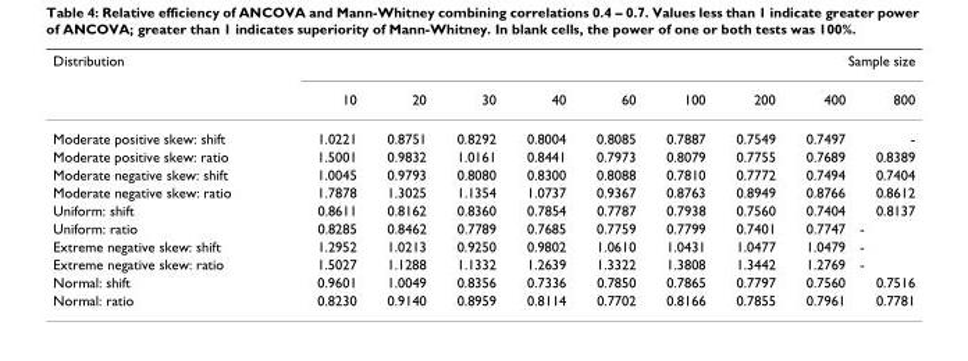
<table><thead><tr><td rowspan="2">Distribution</td><td colspan="9">Sample size</td></tr><tr><td>10</td><td>20</td><td>30</td><td>40</td><td>60</td><td>100</td><td>200</td><td>400</td><td>800</td></tr></thead><tbody><tr><td>Moderate positive skew: shift</td><td>1.0221</td><td>0.8751</td><td>0.8292</td><td>0.8004</td><td>0.8085</td><td>0.7887</td><td>0.7549</td><td>0.7497</td><td>-</td></tr><tr><td>Moderate positive skew: ratio</td><td>1.5001</td><td>0.9832</td><td>1.0161</td><td>0.8441</td><td>0.7973</td><td>0.8079</td><td>0.7755</td><td>0.7689</td><td>0.8389</td></tr><tr><td>Moderate negative skew: shift</td><td>1.0045</td><td>0.9793</td><td>0.8080</td><td>0.8300</td><td>0.8088</td><td>0.7810</td><td>0.7772</td><td>0.7494</td><td>0.7404</td></tr><tr><td>Moderate negative skew: ratio</td><td>1.7878</td><td>1.3025</td><td>1.1354</td><td>1.0737</td><td>0.9367</td><td>0.8763</td><td>0.8949</td><td>0.8766</td><td>0.8612</td></tr><tr><td>Uniform: shift</td><td>0.8611</td><td>0.8162</td><td>0.8360</td><td>0.7854</td><td>0.7787</td><td>0.7938</td><td>0.7560</td><td>0.7404</td><td>0.8137</td></tr><tr><td>Uniform: ratio</td><td>0.8285</td><td>0.8462</td><td>0.7789</td><td>0.7685</td><td>0.7759</td><td>0.7799</td><td>0.7401</td><td>0.7747</td><td>-</td></tr><tr><td>Extreme negative skew: shift</td><td>1.2952</td><td>1.0213</td><td>0.9250</td><td>0.9802</td><td>1.0610</td><td>1.0431</td><td>1.0477</td><td>1.0479</td><td>-</td></tr><tr><td>Extreme negative skew: ratio</td><td>1.5027</td><td>1.1288</td><td>1.1332</td><td>1.2639</td><td>1.3322</td><td>1.3808</td><td>1.3442</td><td>1.2769</td><td>-</td></tr><tr><td>Normal: shift</td><td>0.9601</td><td>1.0049</td><td>0.8356</td><td>0.7336</td><td>0.7850</td><td>0.7865</td><td>0.7797</td><td>0.7560</td><td>0.7516</td></tr><tr><td>Normal: ratio</td><td>0.8230</td><td>0.9140</td><td>0.8959</td><td>0.8114</td><td>0.7702</td><td>0.8166</td><td>0.7855</td><td>0.7961</td><td>0.7781</td></tr></tbody></table>